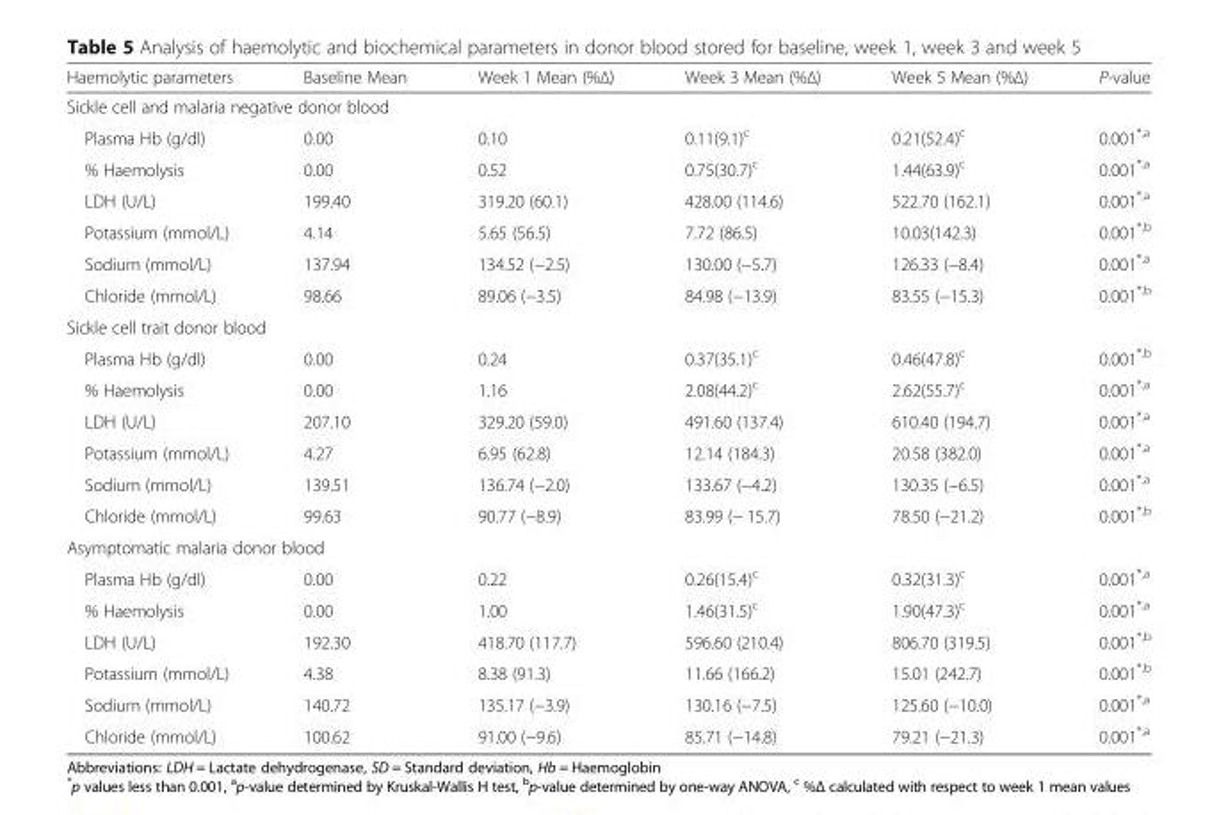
<table><thead><tr><td>Haemolytic parameters</td><td>Baseline Mean</td><td>Week 1 Mean (%Δ)</td><td>Week 3 Mean (%Δ)</td><td>Week 5 Mean (%Δ)</td><td>P-value</td></tr></thead><tbody><tr><td colspan="6">Sickle cell and malaria negative donor blood</td></tr><tr><td>Plasma Hb (g/dl)</td><td>0.00</td><td>0.10</td><td>0.11(9.1)<sup>c</sup></td><td>0.21(52.4)<sup>c</sup></td><td>0.001<sup>*,a</sup></td></tr><tr><td>% Haemolysis</td><td>0.00</td><td>0.52</td><td>0.75(30.7)<sup>c</sup></td><td>1.44(63.9)<sup>c</sup></td><td>0.001<sup>*,a</sup></td></tr><tr><td>LDH (U/L)</td><td>199.40</td><td>319.20 (60.1)</td><td>428.00 (114.6)</td><td>522.70 (162.1)</td><td>0.001<sup>*,a</sup></td></tr><tr><td>Potassium (mmol/L)</td><td>4.14</td><td>5.65 (56.5)</td><td>7.72 (86.5)</td><td>10.03(142.3)</td><td>0.001<sup>*,b</sup></td></tr><tr><td>Sodium (mmol/L)</td><td>137.94</td><td>134.52 (−2.5)</td><td>130.00 (−5.7)</td><td>126.33 (−8.4)</td><td>0.001<sup>*,a</sup></td></tr><tr><td>Chloride (mmol/L)</td><td>98.66</td><td>89.06 (−3.5)</td><td>84.98 (−13.9)</td><td>83.55 (−15.3)</td><td>0.001<sup>*,b</sup></td></tr><tr><td colspan="6">Sickle cell trait donor blood</td></tr><tr><td>Plasma Hb (g/dl)</td><td>0.00</td><td>0.24</td><td>0.37(35.1)<sup>c</sup></td><td>0.46(47.8)<sup>c</sup></td><td>0.001<sup>*,b</sup></td></tr><tr><td>% Haemolysis</td><td>0.00</td><td>1.16</td><td>2.08(44.2)<sup>c</sup></td><td>2.62(55.7)<sup>c</sup></td><td>0.001<sup>*,a</sup></td></tr><tr><td>LDH (U/L)</td><td>207.10</td><td>329.20 (59.0)</td><td>491.60 (137.4)</td><td>610.40 (194.7)</td><td>0.001<sup>*,a</sup></td></tr><tr><td>Potassium (mmol/L)</td><td>4.27</td><td>6.95 (62.8)</td><td>12.14 (184.3)</td><td>20.58 (382.0)</td><td>0.001<sup>*,a</sup></td></tr><tr><td>Sodium (mmol/L)</td><td>139.51</td><td>136.74 (−2.0)</td><td>133.67 (−4.2)</td><td>130.35 (−6.5)</td><td>0.001<sup>*,a</sup></td></tr><tr><td>Chloride (mmol/L)</td><td>99.63</td><td>90.77 (−8.9)</td><td>83.99 (− 15.7)</td><td>78.50 (−21.2)</td><td>0.001<sup>*,b</sup></td></tr><tr><td colspan="6">Asymptomatic malaria donor blood</td></tr><tr><td>Plasma Hb (g/dl)</td><td>0.00</td><td>0.22</td><td>0.26(15.4)<sup>c</sup></td><td>0.32(31.3)<sup>c</sup></td><td>0.001<sup>*,a</sup></td></tr><tr><td>% Haemolysis</td><td>0.00</td><td>1.00</td><td>1.46(31.5)<sup>c</sup></td><td>1.90(47.3)<sup>c</sup></td><td>0.001<sup>*,a</sup></td></tr><tr><td>LDH (U/L)</td><td>192.30</td><td>418.70 (117.7)</td><td>596.60 (210.4)</td><td>806.70 (319.5)</td><td>0.001<sup>*,b</sup></td></tr><tr><td>Potassium (mmol/L)</td><td>4.38</td><td>8.38 (91.3)</td><td>11.66 (166.2)</td><td>15.01 (242.7)</td><td>0.001<sup>*,b</sup></td></tr><tr><td>Sodium (mmol/L)</td><td>140.72</td><td>135.17 (−3.9)</td><td>130.16 (−7.5)</td><td>125.60 (−10.0)</td><td>0.001<sup>*,a</sup></td></tr><tr><td>Chloride (mmol/L)</td><td>100.62</td><td>91.00 (−9.6)</td><td>85.71 (−14.8)</td><td>79.21 (−21.3)</td><td>0.001<sup>*,a</sup></td></tr></tbody></table>